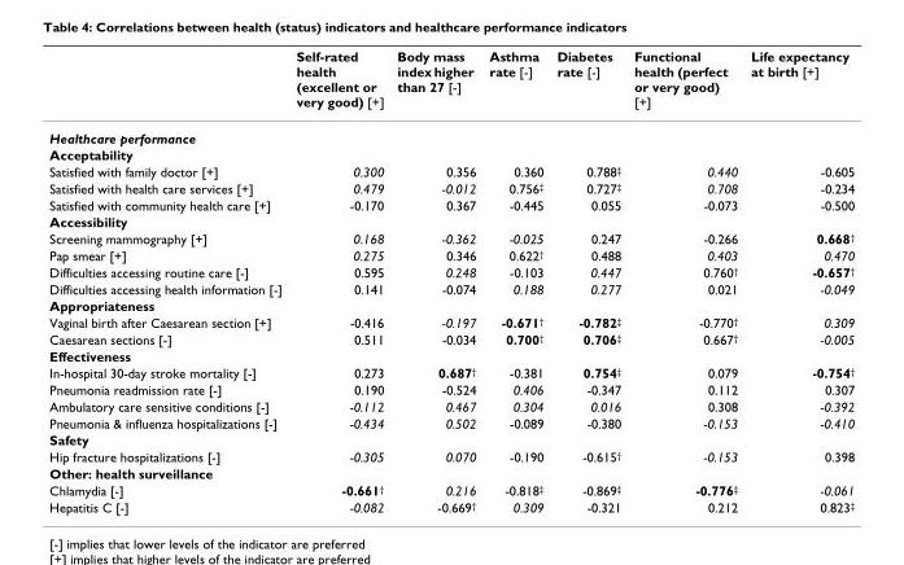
<table><thead><tr><td></td><td>Self-rated health (excellent or very good) [+]</td><td>Body mass index higher than 27 [-]</td><td>Asthma rate [-]</td><td>Diabetes rate [-]</td><td>Functional health (perfect or very good) [+]</td><td>Life expectancy at birth [+]</td></tr></thead><tbody><tr><td colspan="7">Healthcare performance</td></tr><tr><td colspan="7">Acceptability</td></tr><tr><td>Satisfied with family doctor [+]</td><td>0.300</td><td>0.356</td><td>0.360</td><td>0.788<sup>‡</sup></td><td>0.440</td><td>-0.605</td></tr><tr><td>Satisfied with health care services [+]</td><td>0.479</td><td>-0.012</td><td>0.756<sup>‡</sup></td><td>0.727<sup>‡</sup></td><td>0.708</td><td>-0.234</td></tr><tr><td>Satisfied with community health care [+]</td><td>-0.170</td><td>0.367</td><td>-0.445</td><td>0.055</td><td>-0.073</td><td>-0.500</td></tr><tr><td colspan="7">Accessibility</td></tr><tr><td>Screening mammography [+]</td><td>0.168</td><td>-0.362</td><td>-0.025</td><td>0.247</td><td>-0.266</td><td>0.668<sup>†</sup></td></tr><tr><td>Pap smear [+]</td><td>0.275</td><td>0.346</td><td>0.622<sup>†</sup></td><td>0.488</td><td>0.403</td><td>0.470</td></tr><tr><td>Difficulties accessing routine care [-]</td><td>0.595</td><td>0.248</td><td>-0.103</td><td>0.447</td><td>0.760<sup>†</sup></td><td>-0.657<sup>†</sup></td></tr><tr><td>Difficulties accessing health information [-]</td><td>0.141</td><td>-0.074</td><td>0.188</td><td>0.277</td><td>0.021</td><td>-0.049</td></tr><tr><td colspan="7">Appropriateness</td></tr><tr><td>Vaginal birth after Caesarean section [+]</td><td>-0.416</td><td>-0.197</td><td>-0.671<sup>†</sup></td><td>-0.782<sup>‡</sup></td><td>-0.770<sup>†</sup></td><td>0.309</td></tr><tr><td>Caesarean sections [-]</td><td>0.511</td><td>-0.034</td><td>0.700<sup>†</sup></td><td>0.706<sup>‡</sup></td><td>0.667<sup>†</sup></td><td>-0.005</td></tr><tr><td colspan="7">Effectiveness</td></tr><tr><td>In-hospital 30-day stroke mortality [-]</td><td>0.273</td><td>0.687<sup>†</sup></td><td>-0.381</td><td>0.754<sup>‡</sup></td><td>0.079</td><td>-0.754<sup>†</sup></td></tr><tr><td>Pneumonia readmission rate [-]</td><td>0.190</td><td>-0.524</td><td>0.406</td><td>-0.347</td><td>0.112</td><td>0.307</td></tr><tr><td>Ambulatory care sensitive conditions [-]</td><td>-0.112</td><td>0.467</td><td>0.304</td><td>0.016</td><td>0.308</td><td>-0.392</td></tr><tr><td>Pneumonia &amp; influenza hospitalizations [-]</td><td>-0.434</td><td>0.502</td><td>-0.089</td><td>-0.380</td><td>-0.153</td><td>-0.410</td></tr><tr><td colspan="7">Safety</td></tr><tr><td>Hip fracture hospitalizations [-]</td><td>-0.305</td><td>0.070</td><td>-0.190</td><td>-0.615<sup>†</sup></td><td>-0.153</td><td>0.398</td></tr><tr><td colspan="7">Other: health surveillance</td></tr><tr><td>Chlamydia [-]</td><td>-0.661<sup>†</sup></td><td>0.216</td><td>-0.818<sup>‡</sup></td><td>-0.869<sup>‡</sup></td><td>-0.776<sup>‡</sup></td><td>-0.061</td></tr><tr><td>Hepatitis C [-]</td><td>-0.082</td><td>-0.669<sup>†</sup></td><td>0.309</td><td>-0.321</td><td>0.212</td><td>0.823<sup>‡</sup></td></tr></tbody></table>